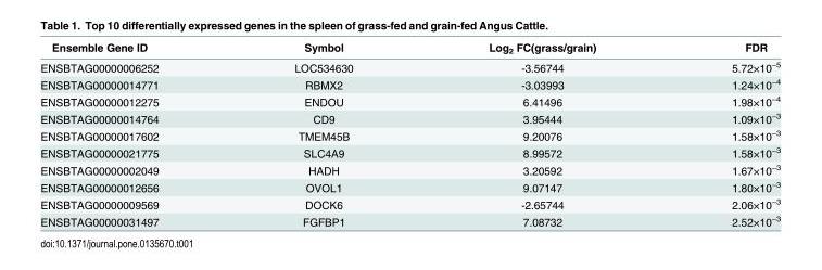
<table><thead><tr><td>Ensemble Gene ID</td><td>Symbol</td><td>Log<sub>2</sub> FC(grass/grain)</td><td>FDR</td></tr></thead><tbody><tr><td>ENSBTAG00000006252</td><td>LOC534630</td><td>-3.56744</td><td>5.72×10<sup>−5</sup></td></tr><tr><td>ENSBTAG00000014771</td><td>RBMX2</td><td>-3.03993</td><td>1.24×10<sup>−4</sup></td></tr><tr><td>ENSBTAG00000012275</td><td>ENDOU</td><td>6.41496</td><td>1.98×10<sup>−4</sup></td></tr><tr><td>ENSBTAG00000014764</td><td>CD9</td><td>3.95444</td><td>1.09×10<sup>−3</sup></td></tr><tr><td>ENSBTAG00000017602</td><td>TMEM45B</td><td>9.20076</td><td>1.58×10<sup>−3</sup></td></tr><tr><td>ENSBTAG00000021775</td><td>SLC4A9</td><td>8.99572</td><td>1.58×10<sup>−3</sup></td></tr><tr><td>ENSBTAG00000002049</td><td>HADH</td><td>3.20592</td><td>1.67×10<sup>−3</sup></td></tr><tr><td>ENSBTAG00000012656</td><td>OVOL1</td><td>9.07147</td><td>1.80×10<sup>−3</sup></td></tr><tr><td>ENSBTAG00000009569</td><td>DOCK6</td><td>-2.65744</td><td>2.06×10<sup>−3</sup></td></tr><tr><td>ENSBTAG00000031497</td><td>FGFBP1</td><td>7.08732</td><td>2.52×10<sup>−3</sup></td></tr></tbody></table>